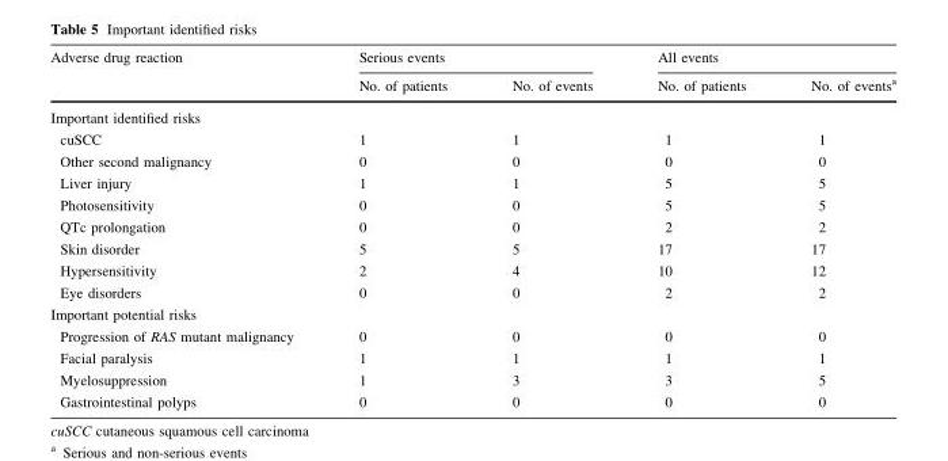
<table><thead><tr><td rowspan="2">Adverse drug reaction</td><td colspan="2">Serious events</td><td colspan="2">All events</td></tr><tr><td>No. of patients</td><td>No. of events</td><td>No. of patients</td><td>No. of events<sup>a</sup></td></tr></thead><tbody><tr><td colspan="5">Important identified risks</td></tr><tr><td>cuSCC</td><td>1</td><td>1</td><td>1</td><td>1</td></tr><tr><td>Other second malignancy</td><td>0</td><td>0</td><td>0</td><td>0</td></tr><tr><td>Liver injury</td><td>1</td><td>1</td><td>5</td><td>5</td></tr><tr><td>Photosensitivity</td><td>0</td><td>0</td><td>5</td><td>5</td></tr><tr><td>QTc prolongation</td><td>0</td><td>0</td><td>2</td><td>2</td></tr><tr><td>Skin disorder</td><td>5</td><td>5</td><td>17</td><td>17</td></tr><tr><td>Hypersensitivity</td><td>2</td><td>4</td><td>10</td><td>12</td></tr><tr><td>Eye disorders</td><td>0</td><td>0</td><td>2</td><td>2</td></tr><tr><td colspan="5">Important potential risks</td></tr><tr><td>Progression of RAS mutant malignancy</td><td>0</td><td>0</td><td>0</td><td>0</td></tr><tr><td>Facial paralysis</td><td>1</td><td>1</td><td>1</td><td>1</td></tr><tr><td>Myelosuppression</td><td>1</td><td>3</td><td>3</td><td>5</td></tr><tr><td>Gastrointestinal polyps</td><td>0</td><td>0</td><td>0</td><td>0</td></tr></tbody></table>